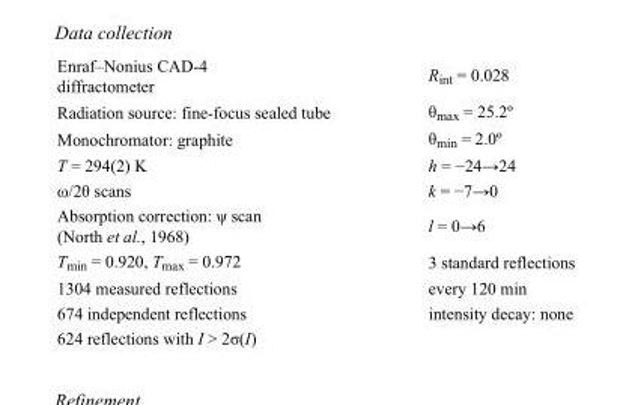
<table><tbody><tr><td>Enraf–Nonius CAD-4 diffractometer</td><td>R<sub>int</sub> = 0.028</td></tr><tr><td>Radiation source: fine-focus sealed tube</td><td>θ<sub>max</sub> = 25.2º</td></tr><tr><td>Monochromator: graphite</td><td>θ<sub>min</sub> = 2.0º</td></tr><tr><td>T = 294(2) K</td><td>h = −24→24</td></tr><tr><td>ω/2θ scans</td><td>k = −7→0</td></tr><tr><td>Absorption correction: ψ scan (North et al., 1968)</td><td>l = 0→6</td></tr><tr><td>T<sub>min</sub> = 0.920, T<sub>max</sub> = 0.972</td><td>3 standard reflections</td></tr><tr><td>1304 measured reflections</td><td>every 120 min</td></tr><tr><td>674 independent reflections</td><td>intensity decay: none</td></tr><tr><td>624 reflections with I &gt; 2σ(I)</td><td></td></tr></tbody></table>